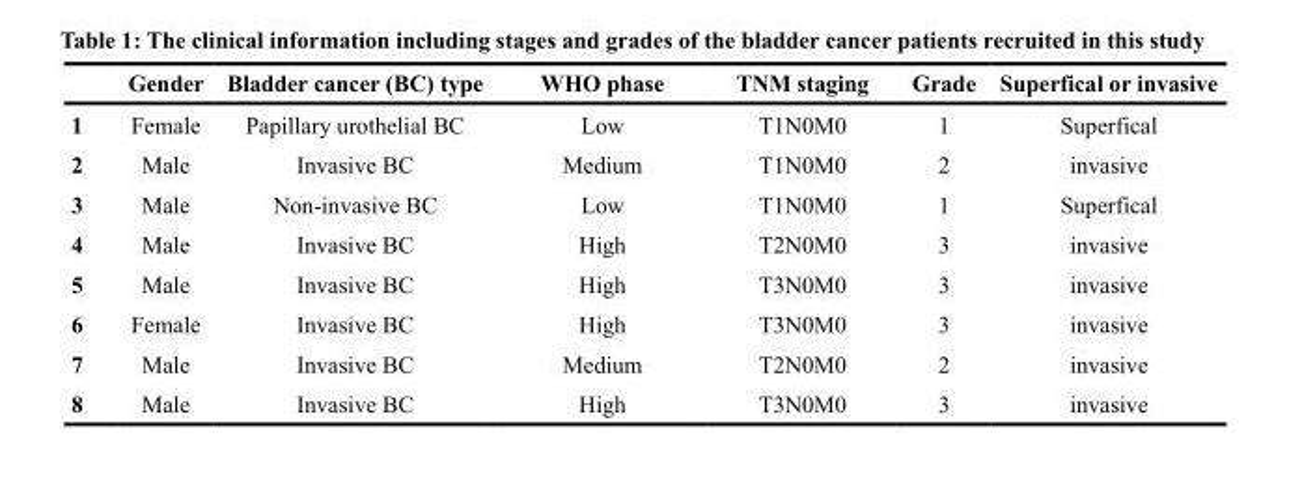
<table><thead><tr><td></td><td>Gender</td><td>Bladder cancer (BC) type</td><td>WHO phase</td><td>TNM staging</td><td>Grade</td><td>Superfical or invasive</td></tr></thead><tbody><tr><td>1</td><td>Female</td><td>Papillary urothelial BC</td><td>Low</td><td>T1N0M0</td><td>1</td><td>Superfical</td></tr><tr><td>2</td><td>Male</td><td>Invasive BC</td><td>Medium</td><td>T1N0M0</td><td>2</td><td>invasive</td></tr><tr><td>3</td><td>Male</td><td>Non-invasive BC</td><td>Low</td><td>T1N0M0</td><td>1</td><td>Superfical</td></tr><tr><td>4</td><td>Male</td><td>Invasive BC</td><td>High</td><td>T2N0M0</td><td>3</td><td>invasive</td></tr><tr><td>5</td><td>Male</td><td>Invasive BC</td><td>High</td><td>T3N0M0</td><td>3</td><td>invasive</td></tr><tr><td>6</td><td>Female</td><td>Invasive BC</td><td>High</td><td>T3N0M0</td><td>3</td><td>invasive</td></tr><tr><td>7</td><td>Male</td><td>Invasive BC</td><td>Medium</td><td>T2N0M0</td><td>2</td><td>invasive</td></tr><tr><td>8</td><td>Male</td><td>Invasive BC</td><td>High</td><td>T3N0M0</td><td>3</td><td>invasive</td></tr></tbody></table>